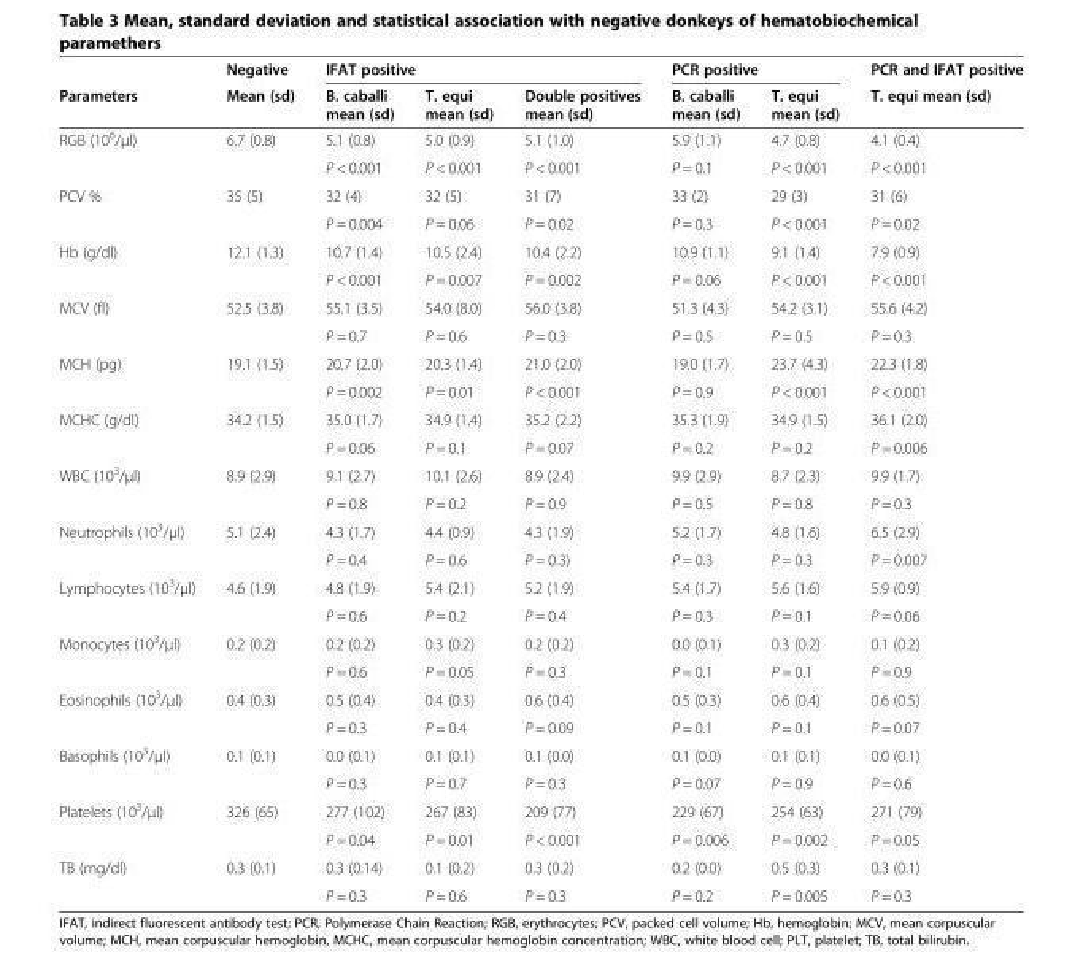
<table><thead><tr><td rowspan="2">Parameters</td><td rowspan="2">Negative Mean (sd)</td><td colspan="3">IFAT positive</td><td colspan="2">PCR positive</td><td rowspan="2">PCR and IFAT positive T. equi mean (sd)</td></tr><tr><td>B. caballi mean (sd)</td><td>T. equi mean (sd)</td><td>Double positives mean (sd)</td><td>B. caballi mean (sd)</td><td>T. equi mean (sd)</td></tr></thead><tbody><tr><td rowspan="2">RGB (10<sup>6</sup>/μl)</td><td rowspan="2">6.7 (0.8)</td><td>5.1 (0.8)</td><td>5.0 (0.9)</td><td>5.1 (1.0)</td><td>5.9 (1.1)</td><td>4.7 (0.8)</td><td>4.1 (0.4)</td></tr><tr><td>P &lt; 0.001</td><td>P &lt; 0.001</td><td>P &lt; 0.001</td><td>P = 0.1</td><td>P &lt; 0.001</td><td>P &lt; 0.001</td></tr><tr><td rowspan="2">PCV %</td><td rowspan="2">35 (5)</td><td>32 (4)</td><td>32 (5)</td><td>31 (7)</td><td>33 (2)</td><td>29 (3)</td><td>31 (6)</td></tr><tr><td>P = 0.004</td><td>P = 0.06</td><td>P = 0.02</td><td>P = 0.3</td><td>P &lt; 0.001</td><td>P = 0.02</td></tr><tr><td rowspan="2">Hb (g/dl)</td><td rowspan="2">12.1 (1.3)</td><td>10.7 (1.4)</td><td>10.5 (2.4)</td><td>10.4 (2.2)</td><td>10.9 (1.1)</td><td>9.1 (1.4)</td><td>7.9 (0.9)</td></tr><tr><td>P &lt; 0.001</td><td>P = 0.007</td><td>P = 0.002</td><td>P = 0.06</td><td>P &lt; 0.001</td><td>P &lt; 0.001</td></tr><tr><td rowspan="2">MCV (fl)</td><td rowspan="2">52.5 (3.8)</td><td>55.1 (3.5)</td><td>54.0 (8.0)</td><td>56.0 (3.8)</td><td>51.3 (4.3)</td><td>54.2 (3.1)</td><td>55.6 (4.2)</td></tr><tr><td>P = 0.7</td><td>P = 0.6</td><td>P = 0.3</td><td>P = 0.5</td><td>P = 0.5</td><td>P = 0.3</td></tr><tr><td rowspan="2">MCH (pg)</td><td rowspan="2">19.1 (1.5)</td><td>20.7 (2.0)</td><td>20.3 (1.4)</td><td>21.0 (2.0)</td><td>19.0 (1.7)</td><td>23.7 (4.3)</td><td>22.3 (1.8)</td></tr><tr><td>P = 0.002</td><td>P = 0.01</td><td>P &lt; 0.001</td><td>P = 0.9</td><td>P &lt; 0.001</td><td>P &lt; 0.001</td></tr><tr><td rowspan="2">MCHC (g/dl)</td><td rowspan="2">34.2 (1.5)</td><td>35.0 (1.7)</td><td>34.9 (1.4)</td><td>35.2 (2.2)</td><td>35.3 (1.9)</td><td>34.9 (1.5)</td><td>36.1 (2.0)</td></tr><tr><td>P = 0.06</td><td>P = 0.1</td><td>P = 0.07</td><td>P = 0.2</td><td>P = 0.2</td><td>P = 0.006</td></tr><tr><td rowspan="2">WBC (10<sup>3</sup>/μl)</td><td rowspan="2">8.9 (2.9)</td><td>9.1 (2.7)</td><td>10.1 (2.6)</td><td>8.9 (2.4)</td><td>9.9 (2.9)</td><td>8.7 (2.3)</td><td>9.9 (1.7)</td></tr><tr><td>P = 0.8</td><td>P = 0.2</td><td>P = 0.9</td><td>P = 0.5</td><td>P = 0.8</td><td>P = 0.3</td></tr><tr><td rowspan="2">Neutrophils (10<sup>3</sup>/μl)</td><td rowspan="2">5.1 (2.4)</td><td>4.3 (1.7)</td><td>4.4 (0.9)</td><td>4.3 (1.9)</td><td>5.2 (1.7)</td><td>4.8 (1.6)</td><td>6.5 (2.9)</td></tr><tr><td>P = 0.4</td><td>P = 0.6</td><td>P = 0.3)</td><td>P = 0.3</td><td>P = 0.3</td><td>P = 0.007</td></tr><tr><td rowspan="2">Lymphocytes (10<sup>3</sup>/μl)</td><td rowspan="2">4.6 (1.9)</td><td>4.8 (1.9)</td><td>5.4 (2.1)</td><td>5.2 (1.9)</td><td>5.4 (1.7)</td><td>5.6 (1.6)</td><td>5.9 (0.9)</td></tr><tr><td>P = 0.6</td><td>P = 0.2</td><td>P = 0.4</td><td>P = 0.3</td><td>P = 0.1</td><td>P = 0.06</td></tr><tr><td rowspan="2">Monocytes (10<sup>3</sup>/μl)</td><td rowspan="2">0.2 (0.2)</td><td>0.2 (0.2)</td><td>0.3 (0.2)</td><td>0.2 (0.2)</td><td>0.0 (0.1)</td><td>0.3 (0.2)</td><td>0.1 (0.2)</td></tr><tr><td>P = 0.6</td><td>P = 0.05</td><td>P = 0.3</td><td>P = 0.1</td><td>P = 0.1</td><td>P = 0.9</td></tr><tr><td rowspan="2">Eosinophils (10<sup>3</sup>/μl)</td><td rowspan="2">0.4 (0.3)</td><td>0.5 (0.4)</td><td>0.4 (0.3)</td><td>0.6 (0.4)</td><td>0.5 (0.3)</td><td>0.6 (0.4)</td><td>0.6 (0.5)</td></tr><tr><td>P = 0.3</td><td>P = 0.4</td><td>P = 0.09</td><td>P = 0.1</td><td>P = 0.1</td><td>P = 0.07</td></tr><tr><td rowspan="2">Basophils (10<sup>3</sup>/μl)</td><td rowspan="2">0.1 (0.1)</td><td>0.0 (0.1)</td><td>0.1 (0.1)</td><td>0.1 (0.0)</td><td>0.1 (0.0)</td><td>0.1 (0.1)</td><td>0.0 (0.1)</td></tr><tr><td>P = 0.3</td><td>P = 0.7</td><td>P = 0.3</td><td>P = 0.07</td><td>P = 0.9</td><td>P = 0.6</td></tr><tr><td rowspan="2">Platelets (10<sup>3</sup>/μl)</td><td rowspan="2">326 (65)</td><td>277 (102)</td><td>267 (83)</td><td>209 (77)</td><td>229 (67)</td><td>254 (63)</td><td>271 (79)</td></tr><tr><td>P = 0.04</td><td>P = 0.01</td><td>P &lt; 0.001</td><td>P = 0.006</td><td>P = 0.002</td><td>P = 0.05</td></tr><tr><td rowspan="2">TB (mg/dl)</td><td rowspan="2">0.3 (0.1)</td><td>0.3 (0.14)</td><td>0.1 (0.2)</td><td>0.3 (0.2)</td><td>0.2 (0.0)</td><td>0.5 (0.3)</td><td>0.3 (0.1)</td></tr><tr><td>P = 0.3</td><td>P = 0.6</td><td>P = 0.3</td><td>P = 0.2</td><td>P = 0.005</td><td>P = 0.3</td></tr></tbody></table>